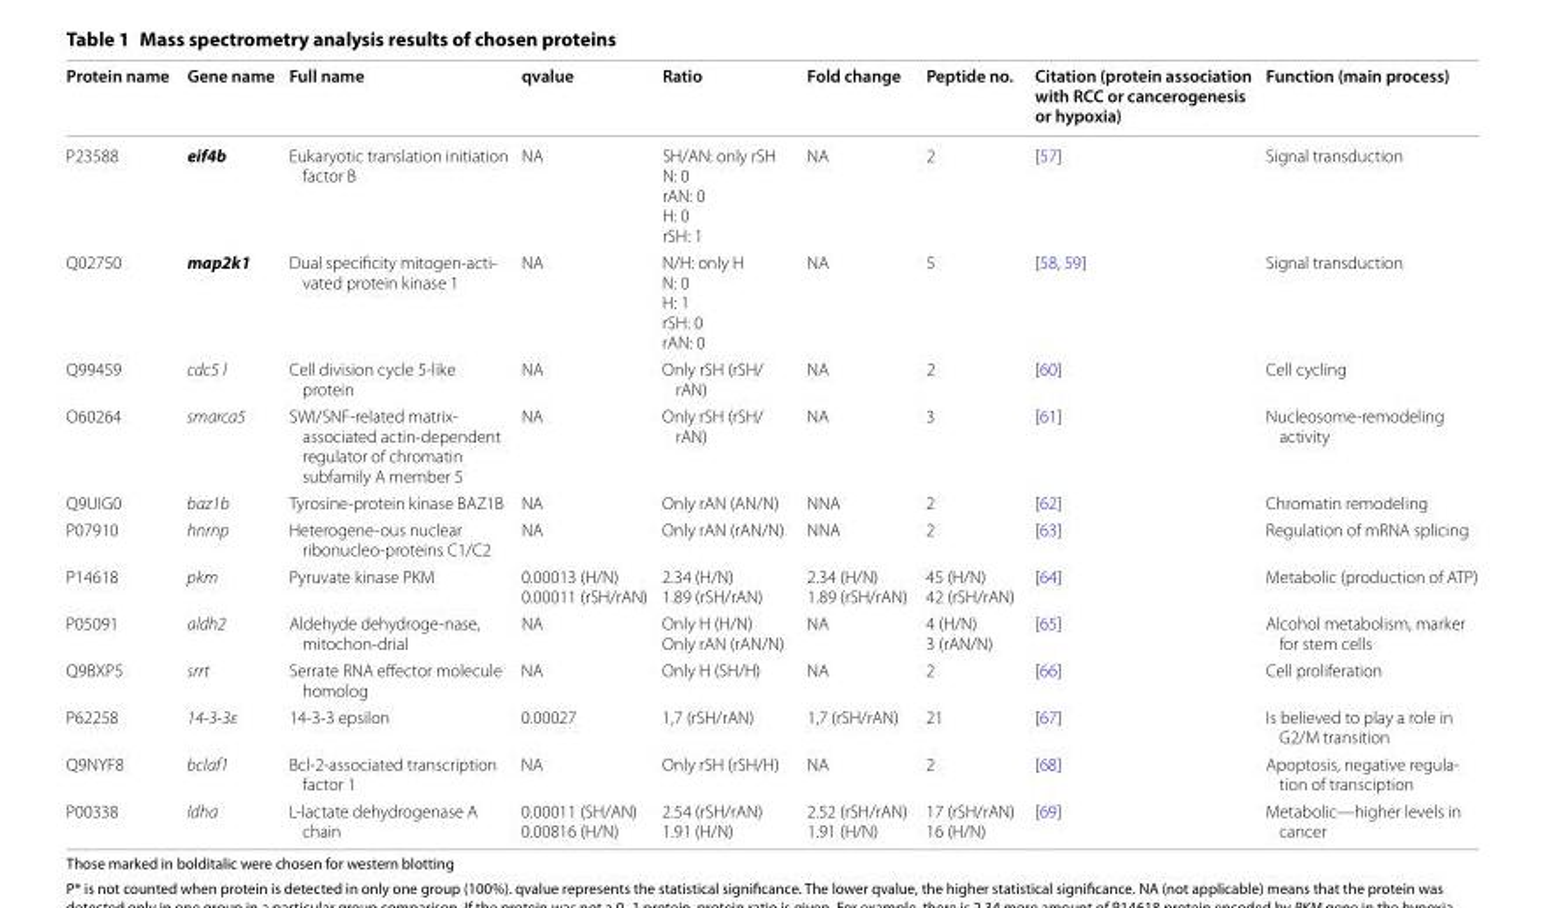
<table><thead><tr><td>Protein name</td><td>Gene name</td><td>Full name</td><td>qvalue</td><td>Ratio</td><td>Fold change</td><td>Peptide no.</td><td>Citation (protein association with RCC or cancerogenesis or hypoxia)</td><td>Function (main process)</td></tr></thead><tbody><tr><td>P23588</td><td>eif4b</td><td>Eukaryotic translation initiation factor B</td><td>NA</td><td>SH/AN: only rSH N: 0 rAN: 0 H: 0 rSH: 1</td><td>NA</td><td>2</td><td>[57]</td><td>Signal transduction</td></tr><tr><td>Q02750</td><td>map2k1</td><td>Dual specificity mitogen-acti- vated protein kinase 1</td><td>NA</td><td>N/H: only H N: 0 H: 1 rSH: 0 rAN: 0</td><td>NA</td><td>5</td><td>[58, 59]</td><td>Signal transduction</td></tr><tr><td>Q99459</td><td>cdc5 l</td><td>Cell division cycle 5-like protein</td><td>NA</td><td>Only rSH (rSH/ rAN)</td><td>NA</td><td>2</td><td>[60]</td><td>Cell cycling</td></tr><tr><td>O60264</td><td>smarca5</td><td>SWI/SNF-related matrix- associated actin-dependent regulator of chromatin subfamily A member 5</td><td>NA</td><td>Only rSH (rSH/ rAN)</td><td>NA</td><td>3</td><td>[61]</td><td>Nucleosome-remodeling activity</td></tr><tr><td>Q9UIG0</td><td>baz1b</td><td>Tyrosine-protein kinase BAZ1B</td><td>NA</td><td>Only rAN (AN/N)</td><td>NNA</td><td>2</td><td>[62]</td><td>Chromatin remodeling</td></tr><tr><td>P07910</td><td>hnrnp</td><td>Heterogene-ous nuclear ribonucleo-proteins C1/C2</td><td>NA</td><td>Only rAN (rAN/N)</td><td>NNA</td><td>2</td><td>[63]</td><td>Regulation of mRNA splicing</td></tr><tr><td>P14618</td><td>pkm</td><td>Pyruvate kinase PKM</td><td>0.00013 (H/N) 0.00011 (rSH/rAN)</td><td>2.34 (H/N) 1.89 (rSH/rAN)</td><td>2.34 (H/N) 1.89 (rSH/rAN)</td><td>45 (H/N) 42 (rSH/rAN)</td><td>[64]</td><td>Metabolic (production of ATP)</td></tr><tr><td>P05091</td><td>aldh2</td><td>Aldehyde dehydroge-nase, mitochon-drial</td><td>NA</td><td>Only H (H/N) Only rAN (rAN/N)</td><td>NA</td><td>4 (H/N) 3 (rAN/N)</td><td>[65]</td><td>Alcohol metabolism, marker for stem cells</td></tr><tr><td>Q9BXP5</td><td>srrt</td><td>Serrate RNA effector molecule homolog</td><td>NA</td><td>Only H (SH/H)</td><td>NA</td><td>2</td><td>[66]</td><td>Cell proliferation</td></tr><tr><td>P62258</td><td>14-3-3ε</td><td>14-3-3 epsilon</td><td>0.00027</td><td>1,7 (rSH/rAN)</td><td>1,7 (rSH/rAN)</td><td>21</td><td>[67]</td><td>Is believed to play a role in G2/M transition</td></tr><tr><td>Q9NYF8</td><td>bclaf1</td><td>Bcl-2-associated transcription factor 1</td><td>NA</td><td>Only rSH (rSH/H)</td><td>NA</td><td>2</td><td>[68]</td><td>Apoptosis, negative regula- tion of transciption</td></tr><tr><td>P00338</td><td>ldha</td><td>L-lactate dehydrogenase A chain</td><td>0.00011 (SH/AN) 0.00816 (H/N)</td><td>2.54 (rSH/rAN) 1.91 (H/N)</td><td>2.52 (rSH/rAN) 1.91 (H/N)</td><td>17 (rSH/rAN) 16 (H/N)</td><td>[69]</td><td>Metabolic—higher levels in cancer</td></tr></tbody></table>